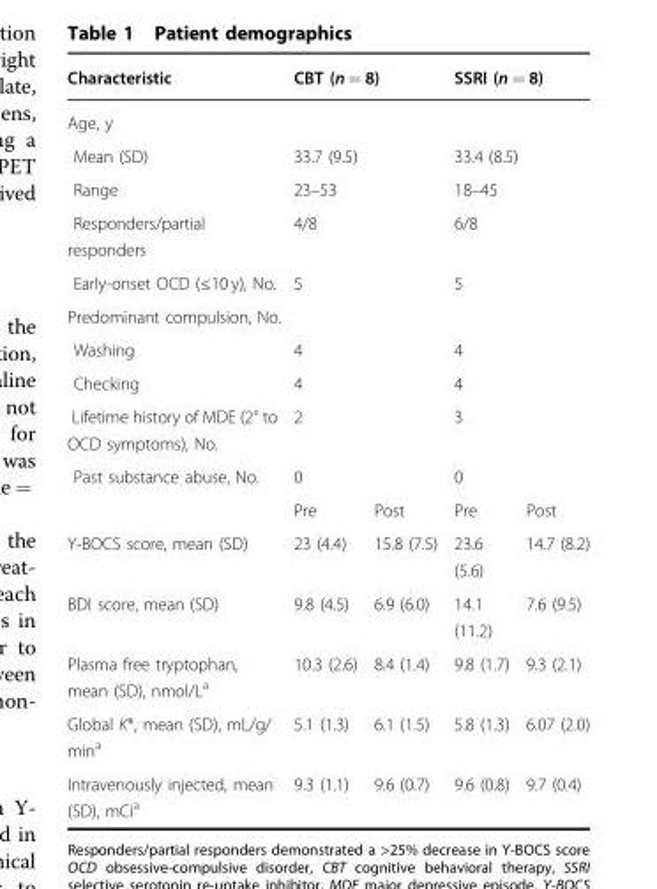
<table><thead><tr><td>Characteristic</td><td colspan="2">CBT (n = 8)</td><td colspan="2">SSRI (n = 8)</td></tr></thead><tbody><tr><td colspan="5">Age, y</td></tr><tr><td>Mean (SD)</td><td colspan="2">33.7 (9.5)</td><td colspan="2">33.4 (8.5)</td></tr><tr><td>Range</td><td colspan="2">23–53</td><td colspan="2">18–45</td></tr><tr><td>Responders/partial responders</td><td colspan="2">4/8</td><td colspan="2">6/8</td></tr><tr><td>Early-onset OCD (≤10 y), No.</td><td colspan="2">5</td><td colspan="2">5</td></tr><tr><td colspan="5">Predominant compulsion, No.</td></tr><tr><td>Washing</td><td colspan="2">4</td><td colspan="2">4</td></tr><tr><td>Checking</td><td colspan="2">4</td><td colspan="2">4</td></tr><tr><td>Lifetime history of MDE (2° to OCD symptoms), No.</td><td colspan="2">2</td><td colspan="2">3</td></tr><tr><td rowspan="2">Past substance abuse, No.</td><td colspan="2">0</td><td colspan="2">0</td></tr><tr><td>Pre</td><td>Post</td><td>Pre</td><td>Post</td></tr><tr><td>Y-BOCS score, mean (SD)</td><td>23 (4.4)</td><td>15.8 (7.5)</td><td>23.6 (5.6)</td><td>14.7 (8.2)</td></tr><tr><td>BDI score, mean (SD)</td><td>9.8 (4.5)</td><td>6.9 (6.0)</td><td>14.1 (11.2)</td><td>7.6 (9.5)</td></tr><tr><td>Plasma free tryptophan, mean (SD), nmol/L<sup>a</sup></td><td>10.3 (2.6)</td><td>8.4 (1.4)</td><td>9.8 (1.7)</td><td>9.3 (2.1)</td></tr><tr><td>Global K*, mean (SD), mL/g/ min<sup>a</sup></td><td>5.1 (1.3)</td><td>6.1 (1.5)</td><td>5.8 (1.3)</td><td>6.07 (2.0)</td></tr><tr><td>Intravenously injected, mean (SD), mCi<sup>a</sup></td><td>9.3 (1.1)</td><td>9.6 (0.7)</td><td>9.6 (0.8)</td><td>9.7 (0.4)</td></tr></tbody></table>